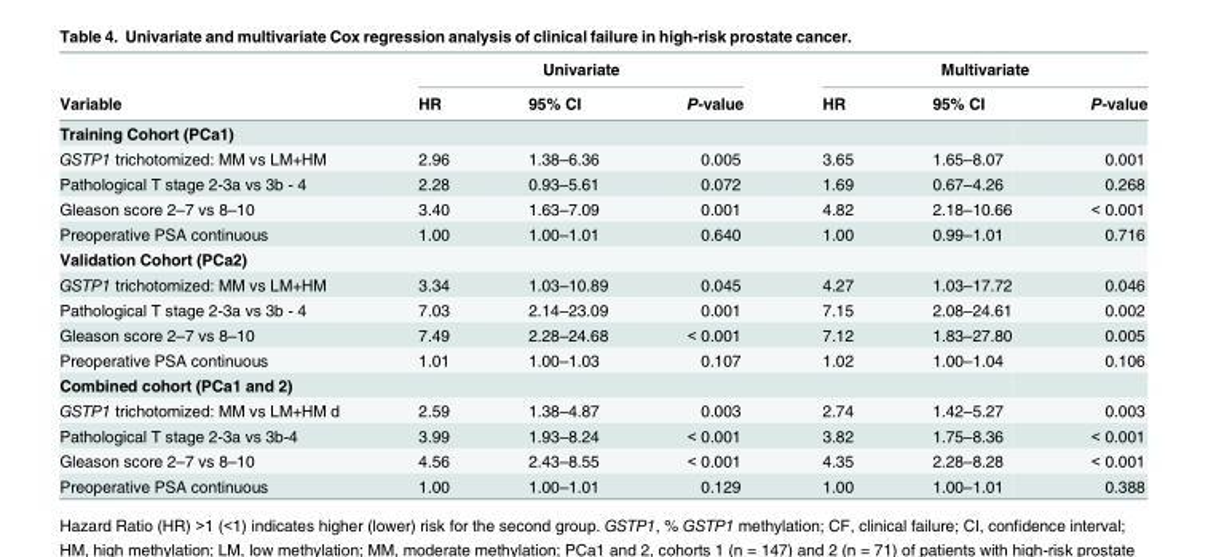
<table><thead><tr><td rowspan="2">Variable</td><td colspan="3">Univariate</td><td colspan="3">Multivariate</td></tr><tr><td>HR</td><td>95% CI</td><td>P-value</td><td>HR</td><td>95% CI</td><td>P-value</td></tr></thead><tbody><tr><td colspan="7">Training Cohort (PCa1)</td></tr><tr><td>GSTP1 trichotomized: MM vs LM+HM</td><td>2.96</td><td>1.38–6.36</td><td>0.005</td><td>3.65</td><td>1.65–8.07</td><td>0.001</td></tr><tr><td>Pathological T stage 2-3a vs 3b - 4</td><td>2.28</td><td>0.93–5.61</td><td>0.072</td><td>1.69</td><td>0.67–4.26</td><td>0.268</td></tr><tr><td>Gleason score 2–7 vs 8–10</td><td>3.40</td><td>1.63–7.09</td><td>0.001</td><td>4.82</td><td>2.18–10.66</td><td>&lt; 0.001</td></tr><tr><td>Preoperative PSA continuous</td><td>1.00</td><td>1.00–1.01</td><td>0.640</td><td>1.00</td><td>0.99–1.01</td><td>0.716</td></tr><tr><td colspan="7">Validation Cohort (PCa2)</td></tr><tr><td>GSTP1 trichotomized: MM vs LM+HM</td><td>3.34</td><td>1.03–10.89</td><td>0.045</td><td>4.27</td><td>1.03–17.72</td><td>0.046</td></tr><tr><td>Pathological T stage 2-3a vs 3b - 4</td><td>7.03</td><td>2.14–23.09</td><td>0.001</td><td>7.15</td><td>2.08–24.61</td><td>0.002</td></tr><tr><td>Gleason score 2–7 vs 8–10</td><td>7.49</td><td>2.28–24.68</td><td>&lt; 0.001</td><td>7.12</td><td>1.83–27.80</td><td>0.005</td></tr><tr><td>Preoperative PSA continuous</td><td>1.01</td><td>1.00–1.03</td><td>0.107</td><td>1.02</td><td>1.00–1.04</td><td>0.106</td></tr><tr><td colspan="7">Combined cohort (PCa1 and 2)</td></tr><tr><td>GSTP1 trichotomized: MM vs LM+HM d</td><td>2.59</td><td>1.38–4.87</td><td>0.003</td><td>2.74</td><td>1.42–5.27</td><td>0.003</td></tr><tr><td>Pathological T stage 2-3a vs 3b-4</td><td>3.99</td><td>1.93–8.24</td><td>&lt; 0.001</td><td>3.82</td><td>1.75–8.36</td><td>&lt; 0.001</td></tr><tr><td>Gleason score 2–7 vs 8–10</td><td>4.56</td><td>2.43–8.55</td><td>&lt; 0.001</td><td>4.35</td><td>2.28–8.28</td><td>&lt; 0.001</td></tr><tr><td>Preoperative PSA continuous</td><td>1.00</td><td>1.00–1.01</td><td>0.129</td><td>1.00</td><td>1.00–1.01</td><td>0.388</td></tr></tbody></table>